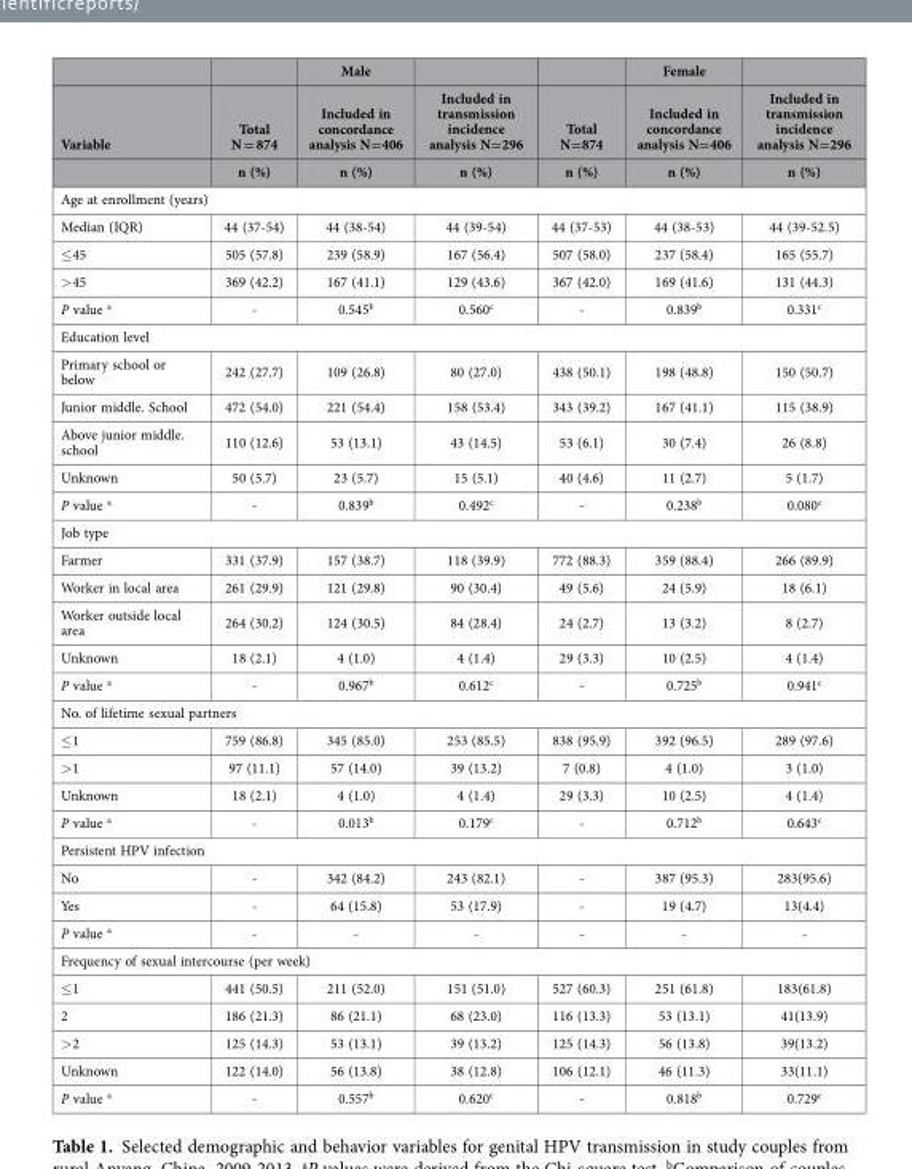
<table><thead><tr><td rowspan="3">Variable</td><td rowspan="3">Total N = 874 n (%)</td><td rowspan="3">Male Included in concordance analysis N=406 n (%)</td><td rowspan="3">Included in transmission incidence analysis N=296 n (%)</td><td rowspan="3">Total N=874 n (%)</td><td rowspan="3">Female Included in concordance analysis N=406 n (%)</td><td rowspan="3">Included in transmission incidence analysis N=296 n (%)</td></tr><tr></tr><tr></tr></thead><tbody><tr><td colspan="7">Age at enrollment (years)</td></tr><tr><td>Median (IQR)</td><td>44 (37-54)</td><td>44 (38-54)</td><td>44 (39-54)</td><td>44 (37-53)</td><td>44 (38-53)</td><td>44 (39-52.5)</td></tr><tr><td>≤ 45</td><td>505 (57.8)</td><td>239 (58.9)</td><td>167 (56.4)</td><td>507 (58.0)</td><td>237 (58.4)</td><td>165 (55.7)</td></tr><tr><td>&gt; 45</td><td>369 (42.2)</td><td>167 (41.1)</td><td>129 (43.6)</td><td>367 (42.0)</td><td>169 (41.6)</td><td>131 (44.3)</td></tr><tr><td>P value a</td><td>-</td><td>0.545<sup>b</sup></td><td>0.560<sup>c</sup></td><td>-</td><td>0.839<sup>b</sup></td><td>0.331<sup>c</sup></td></tr><tr><td colspan="7">Education level</td></tr><tr><td>Primary school or below</td><td>242 (27.7)</td><td>109 (26.8)</td><td>80 (27.0)</td><td>438 (50.1)</td><td>198 (48.8)</td><td>150 (50.7)</td></tr><tr><td>Junior middle. School</td><td>472 (54.0)</td><td>221 (54.4)</td><td>158 (53.4)</td><td>343 (39.2)</td><td>167 (41.1)</td><td>115 (38.9)</td></tr><tr><td>Above junior middle. school</td><td>110 (12.6)</td><td>53 (13.1)</td><td>43 (14.5)</td><td>53 (6.1)</td><td>30 (7.4)</td><td>26 (8.8)</td></tr><tr><td>Unknown</td><td>50 (5.7)</td><td>23 (5.7)</td><td>15 (5.1)</td><td>40 (4.6)</td><td>11 (2.7)</td><td>5 (1.7)</td></tr><tr><td>P value a</td><td>-</td><td>0.839<sup>b</sup></td><td>0.492<sup>c</sup></td><td>-</td><td>0.238<sup>b</sup></td><td>0.080<sup>c</sup></td></tr><tr><td colspan="7">Job type</td></tr><tr><td>Farmer</td><td>331 (37.9)</td><td>157 (38.7)</td><td>118 (39.9)</td><td>772 (88.3)</td><td>359 (88.4)</td><td>266 (89.9)</td></tr><tr><td>Worker in local area</td><td>261 (29.9)</td><td>121 (29.8)</td><td>90 (30.4)</td><td>49 (5.6)</td><td>24 (5.9)</td><td>18 (6.1)</td></tr><tr><td>Worker outside local area</td><td>264 (30.2)</td><td>124 (30.5)</td><td>84 (28.4)</td><td>24 (2.7)</td><td>13 (3.2)</td><td>8 (2.7)</td></tr><tr><td>Unknown</td><td>18 (2.1)</td><td>4 (1.0)</td><td>4 (1.4)</td><td>29 (3.3)</td><td>10 (2.5)</td><td>4 (1.4)</td></tr><tr><td>P value a</td><td>-</td><td>0.967<sup>b</sup></td><td>0.612<sup>c</sup></td><td>-</td><td>0.725<sup>b</sup></td><td>0.941<sup>c</sup></td></tr><tr><td colspan="7">No. of lifetime sexual partners</td></tr><tr><td>≤ 1</td><td>759 (86.8)</td><td>345 (85.0)</td><td>253 (85.5)</td><td>838 (95.9)</td><td>392 (96.5)</td><td>289 (97.6)</td></tr><tr><td>&gt; 1</td><td>97 (11.1)</td><td>57 (14.0)</td><td>39 (13.2)</td><td>7 (0.8)</td><td>4 (1.0)</td><td>3 (1.0)</td></tr><tr><td>Unknown</td><td>18 (2.1)</td><td>4 (1.0)</td><td>4 (1.4)</td><td>29 (3.3)</td><td>10 (2.5)</td><td>4 (1.4)</td></tr><tr><td>P value a</td><td>-</td><td>0.013<sup>b</sup></td><td>0.179<sup>c</sup></td><td>-</td><td>0.712<sup>b</sup></td><td>0.643<sup>c</sup></td></tr><tr><td colspan="7">Persistent HPV infection</td></tr><tr><td>No</td><td>-</td><td>342 (84.2)</td><td>243 (82.1)</td><td>-</td><td>387 (95.3)</td><td>283(95.6)</td></tr><tr><td>Yes</td><td>-</td><td>64 (15.8)</td><td>53 (17.9)</td><td>-</td><td>19 (4.7)</td><td>13(4.4)</td></tr><tr><td>P value a</td><td>-</td><td>-</td><td>-</td><td>-</td><td>-</td><td>-</td></tr><tr><td colspan="7">Frequency of sexual intercourse (per week)</td></tr><tr><td>≤ 1</td><td>441 (50.5)</td><td>211 (52.0)</td><td>151 (51.0)</td><td>527 (60.3)</td><td>251 (61.8)</td><td>183(61.8)</td></tr><tr><td>2</td><td>186 (21.3)</td><td>86 (21.1)</td><td>68 (23.0)</td><td>116 (13.3)</td><td>53 (13.1)</td><td>41(13.9)</td></tr><tr><td>&gt; 2</td><td>125 (14.3)</td><td>53 (13.1)</td><td>39 (13.2)</td><td>125 (14.3)</td><td>56 (13.8)</td><td>39(13.2)</td></tr><tr><td>Unknown</td><td>122 (14.0)</td><td>56 (13.8)</td><td>38 (12.8)</td><td>106 (12.1)</td><td>46 (11.3)</td><td>33(11.1)</td></tr><tr><td>P value a</td><td>-</td><td>0.557<sup>b</sup></td><td>0.620<sup>c</sup></td><td>-</td><td>0.818<sup>b</sup></td><td>0.729<sup>c</sup></td></tr></tbody></table>